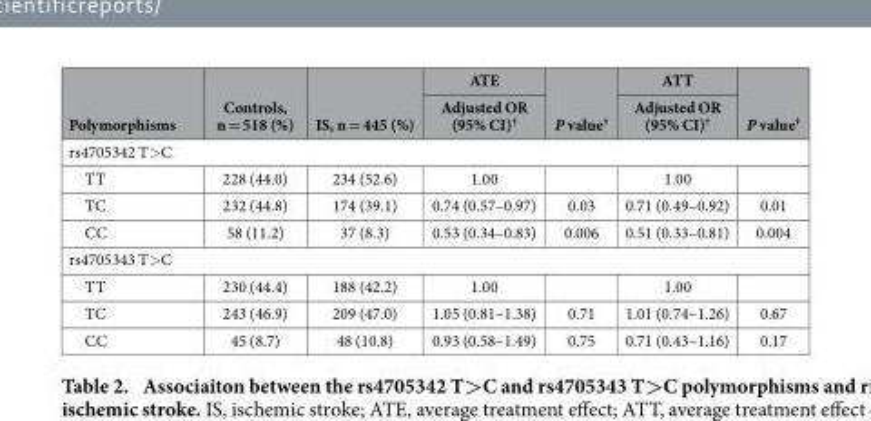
<table><thead><tr><td rowspan="2">Polymorphisms</td><td rowspan="2">Controls, n = 518 (%)</td><td rowspan="2">IS, n = 445 (%)</td><td rowspan="2">ATE Adjusted OR (95% CI)<sup>†</sup></td><td rowspan="2">P value<sup>†</sup></td><td rowspan="2">ATT Adjusted OR (95% CI)<sup>†</sup></td><td rowspan="2">P value<sup>†</sup></td></tr><tr></tr></thead><tbody><tr><td colspan="7">rs4705342 T&gt; C</td></tr><tr><td>TT</td><td>228 (44.0)</td><td>234 (52.6)</td><td>1.00</td><td></td><td>1.00</td><td></td></tr><tr><td>TC</td><td>232 (44.8)</td><td>174 (39.1)</td><td>0.74 (0.57–0.97)</td><td>0.03</td><td>0.71 (0.49–0.92)</td><td>0.01</td></tr><tr><td>CC</td><td>58 (11.2)</td><td>37 (8.3)</td><td>0.53 (0.34–0.83)</td><td>0.006</td><td>0.51 (0.33–0.81)</td><td>0.004</td></tr><tr><td colspan="7">rs4705343 T&gt; C</td></tr><tr><td>TT</td><td>230 (44.4)</td><td>188 (42.2)</td><td>1.00</td><td></td><td>1.00</td><td></td></tr><tr><td>TC</td><td>243 (46.9)</td><td>209 (47.0)</td><td>1.05 (0.81–1.38)</td><td>0.71</td><td>1.01 (0.74–1.26)</td><td>0.67</td></tr><tr><td>CC</td><td>45 (8.7)</td><td>48 (10.8)</td><td>0.93 (0.58–1.49)</td><td>0.75</td><td>0.71 (0.43–1.16)</td><td>0.17</td></tr></tbody></table>